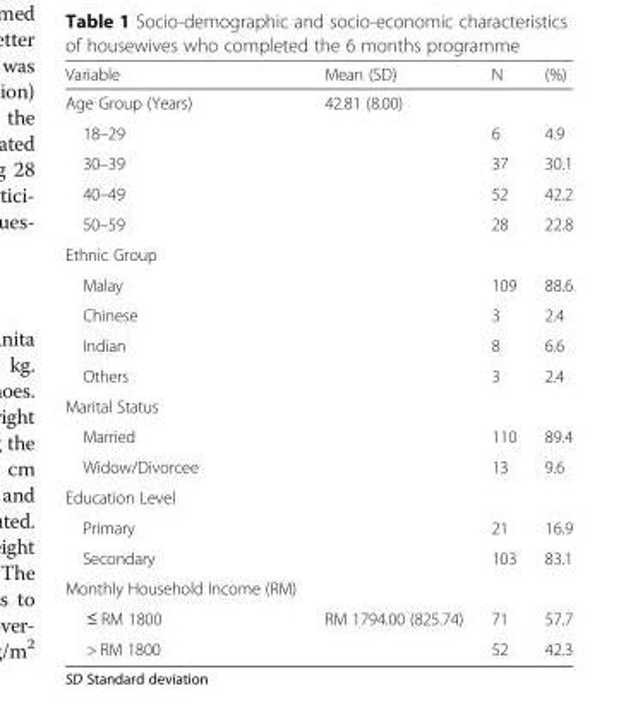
<table><thead><tr><td>Variable</td><td>Mean (SD)</td><td>N</td><td>(%)</td></tr></thead><tbody><tr><td>Age Group (Years)</td><td>42.81 (8.00)</td><td></td><td></td></tr><tr><td>18–29</td><td></td><td>6</td><td>4.9</td></tr><tr><td>30–39</td><td></td><td>37</td><td>30.1</td></tr><tr><td>40–49</td><td></td><td>52</td><td>42.2</td></tr><tr><td>50–59</td><td></td><td>28</td><td>22.8</td></tr><tr><td colspan="4">Ethnic Group</td></tr><tr><td>Malay</td><td></td><td>109</td><td>88.6</td></tr><tr><td>Chinese</td><td></td><td>3</td><td>2.4</td></tr><tr><td>Indian</td><td></td><td>8</td><td>6.6</td></tr><tr><td>Others</td><td></td><td>3</td><td>2.4</td></tr><tr><td colspan="4">Marital Status</td></tr><tr><td>Married</td><td></td><td>110</td><td>89.4</td></tr><tr><td>Widow/Divorcee</td><td></td><td>13</td><td>9.6</td></tr><tr><td colspan="4">Education Level</td></tr><tr><td>Primary</td><td></td><td>21</td><td>16.9</td></tr><tr><td>Secondary</td><td></td><td>103</td><td>83.1</td></tr><tr><td colspan="4">Monthly Household Income (RM)</td></tr><tr><td>≤ RM 1800</td><td>RM 1794.00 (825.74)</td><td>71</td><td>57.7</td></tr><tr><td>&gt; RM 1800</td><td></td><td>52</td><td>42.3</td></tr></tbody></table>